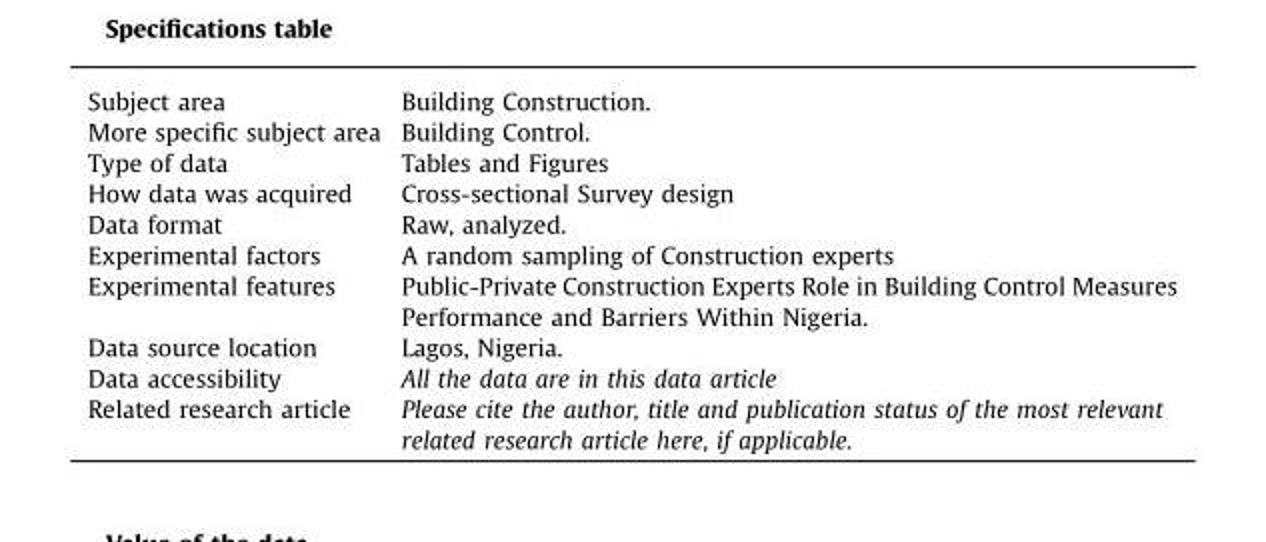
<table><tbody><tr><td>Subject area</td><td>Building Construction.</td></tr><tr><td>More specific subject area</td><td>Building Control.</td></tr><tr><td>Type of data</td><td>Tables and Figures</td></tr><tr><td>How data was acquired</td><td>Cross-sectional Survey design</td></tr><tr><td>Data format</td><td>Raw, analyzed.</td></tr><tr><td>Experimental factors</td><td>A random sampling of Construction experts</td></tr><tr><td>Experimental features</td><td>Public-Private Construction Experts Role in Building Control Measures Performance and Barriers Within Nigeria.</td></tr><tr><td>Data source location</td><td>Lagos, Nigeria.</td></tr><tr><td>Data accessibility</td><td>All the data are in this data article</td></tr><tr><td>Related research article</td><td>Please cite the author, title and publication status of the most relevant related research article here, if applicable.</td></tr></tbody></table>